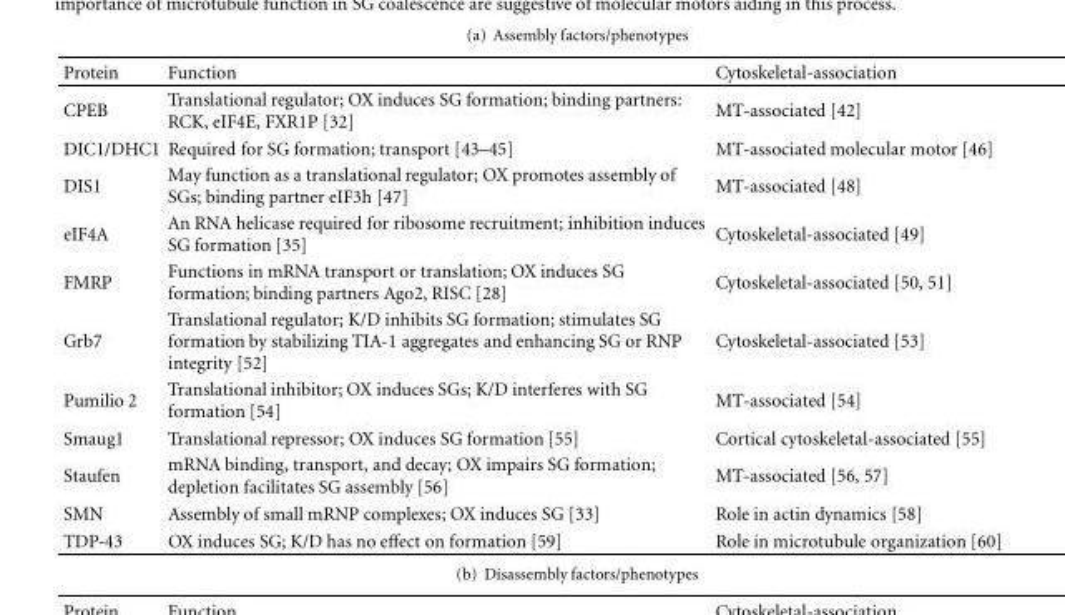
<table><thead><tr><td>Protein</td><td>Function</td><td>Cytoskeletal-association</td></tr></thead><tbody><tr><td>CPEB</td><td>Translational regulator; OX induces SG formation; binding partners: RCK, eIF4E, FXR1P [32]</td><td>MT-associated [42]</td></tr><tr><td>DIC1/DHC1</td><td>Required for SG formation; transport [43–45]</td><td>MT-associated molecular motor [46]</td></tr><tr><td>DIS1</td><td>May function as a translational regulator; OX promotes assembly of SGs; binding partner eIF3h [47]</td><td>MT-associated [48]</td></tr><tr><td>eIF4A</td><td>An RNA helicase required for ribosome recruitment; inhibition induces SG formation [35]</td><td>Cytoskeletal-associated [49]</td></tr><tr><td>FMRP</td><td>Functions in mRNA transport or translation; OX induces SG formation; binding partners Ago2, RISC [28]</td><td>Cytoskeletal-associated [50, 51]</td></tr><tr><td>Grb7</td><td>Translational regulator; K/D inhibits SG formation; stimulates SG formation by stabilizing TIA-1 aggregates and enhancing SG or RNP integrity [52]</td><td>Cytoskeletal-associated [53]</td></tr><tr><td>Pumilio 2</td><td>Translational inhibitor; OX induces SGs; K/D interferes with SG formation [54]</td><td>MT-associated [54]</td></tr><tr><td>Smaug1</td><td>Translational repressor; OX induces SG formation [55]</td><td>Cortical cytoskeletal-associated [55]</td></tr><tr><td>Staufen</td><td>mRNA binding, transport, and decay; OX impairs SG formation; depletion facilitates SG assembly [56]</td><td>MT-associated [56, 57]</td></tr><tr><td>SMN</td><td>Assembly of small mRNP complexes; OX induces SG [33]</td><td>Role in actin dynamics [58]</td></tr><tr><td>TDP-43</td><td>OX induces SG; K/D has no effect on formation [59]</td><td>Role in microtubule organization [60]</td></tr></tbody></table>